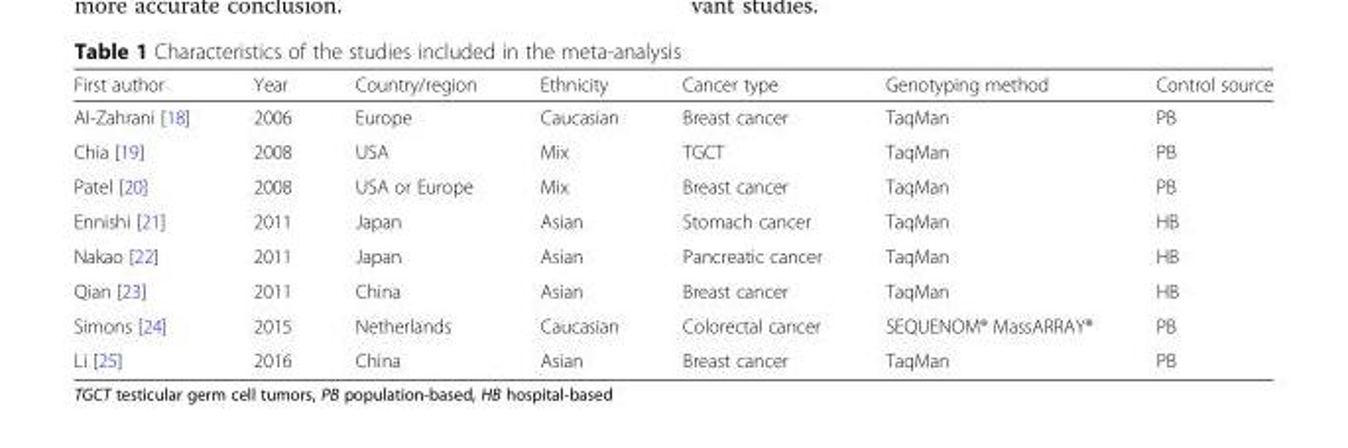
<table><thead><tr><td>First author</td><td>Year</td><td>Country/region</td><td>Ethnicity</td><td>Cancer type</td><td>Genotyping method</td><td>Control source</td></tr></thead><tbody><tr><td>AI-Zahrani [18]</td><td>2006</td><td>Europe</td><td>Caucasian</td><td>Breast cancer</td><td>TaqMan</td><td>PB</td></tr><tr><td>Chia [19]</td><td>2008</td><td>USA</td><td>Mix</td><td>TGCT</td><td>TaqMan</td><td>PB</td></tr><tr><td>Patel [20]</td><td>2008</td><td>USA or Europe</td><td>Mix</td><td>Breast cancer</td><td>TaqMan</td><td>PB</td></tr><tr><td>Ennishi [21]</td><td>2011</td><td>Japan</td><td>Asian</td><td>Stomach cancer</td><td>TaqMan</td><td>HB</td></tr><tr><td>Nakao [22]</td><td>2011</td><td>Japan</td><td>Asian</td><td>Pancreatic cancer</td><td>TaqMan</td><td>HB</td></tr><tr><td>Qian [23]</td><td>2011</td><td>China</td><td>Asian</td><td>Breast cancer</td><td>TaqMan</td><td>HB</td></tr><tr><td>Simons [24]</td><td>2015</td><td>Netherlands</td><td>Caucasian</td><td>Colorectal cancer</td><td>SEQUENOM® MassARRAY®</td><td>PB</td></tr><tr><td>Li [25]</td><td>2016</td><td>China</td><td>Asian</td><td>Breast cancer</td><td>TaqMan</td><td>PB</td></tr></tbody></table>